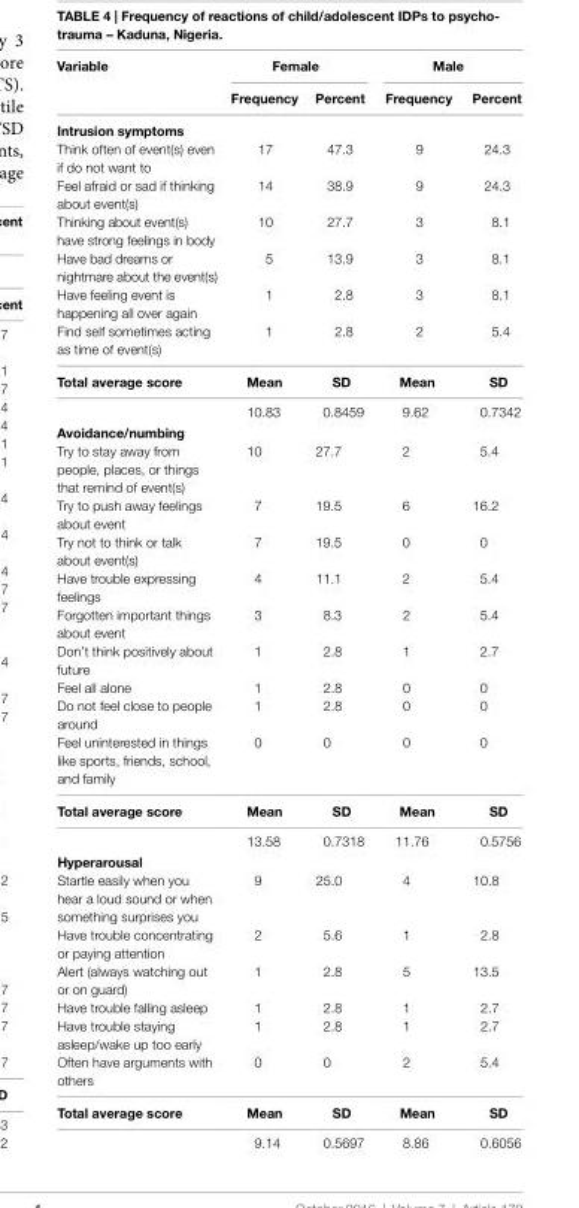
<table><thead><tr><td rowspan="2">Variable</td><td colspan="2">Female</td><td colspan="2">Male</td></tr><tr><td>Frequency</td><td>Percent</td><td>Frequency</td><td>Percent</td></tr></thead><tbody><tr><td colspan="5">intrusion symptoms</td></tr><tr><td>Think often of event(s) even if do not want to</td><td>17</td><td>47.3</td><td>9</td><td>24.3</td></tr><tr><td>Feel afraid or sad if thinking about event(s)</td><td>14</td><td>38.9</td><td>9</td><td>24.3</td></tr><tr><td>Thinking about event(s) have strong feelings in body</td><td>10</td><td>27.7</td><td>3</td><td>8.1</td></tr><tr><td>Have bad dreams or nightmare about the event(s)</td><td>5</td><td>13.9</td><td>3</td><td>8.1</td></tr><tr><td>Have feeling event is happening all over again</td><td>1</td><td>2.8</td><td>3</td><td>8.1</td></tr><tr><td>Find self sometimes acting as time of event(s)</td><td>1</td><td>2.8</td><td>2</td><td>5.4</td></tr><tr><td rowspan="2">Total average score</td><td>Mean</td><td>sD</td><td>Mean</td><td>sD</td></tr><tr><td>10.83</td><td>0.8459</td><td>9.62</td><td>0.7342</td></tr><tr><td colspan="5">avoidance/numbing</td></tr><tr><td>Try to stay away from people, places, or things that remind of event(s)</td><td>10</td><td>27.7</td><td>2</td><td>5.4</td></tr><tr><td>Try to push away feelings about event</td><td>7</td><td>19.5</td><td>6</td><td>16.2</td></tr><tr><td>Try not to think or talk about event(s)</td><td>7</td><td>19.5</td><td>0</td><td>0</td></tr><tr><td>Have trouble expressing feelings</td><td>4</td><td>11.1</td><td>2</td><td>5.4</td></tr><tr><td>Forgotten important things about event</td><td>3</td><td>8.3</td><td>2</td><td>5.4</td></tr><tr><td>Don’t think positively about future</td><td>1</td><td>2.8</td><td>1</td><td>2.7</td></tr><tr><td>Feel all alone</td><td>1</td><td>2.8</td><td>0</td><td>0</td></tr><tr><td>Do not feel close to people around</td><td>1</td><td>2.8</td><td>0</td><td>0</td></tr><tr><td>Feel uninterested in things like sports, friends, school, and family</td><td>0</td><td>0</td><td>0</td><td>0</td></tr><tr><td rowspan="2">Total average score</td><td>Mean</td><td>sD</td><td>Mean</td><td>sD</td></tr><tr><td>13.58</td><td>0.7318</td><td>11.76</td><td>0.5756</td></tr><tr><td colspan="5">hyperarousal</td></tr><tr><td>Startle easily when you hear a loud sound or when something surprises you</td><td>9</td><td>25.0</td><td>4</td><td>10.8</td></tr><tr><td>Have trouble concentrating or paying attention</td><td>2</td><td>5.6</td><td>1</td><td>2.8</td></tr><tr><td>Alert (always watching out or on guard)</td><td>1</td><td>2.8</td><td>5</td><td>13.5</td></tr><tr><td>Have trouble falling asleep</td><td>1</td><td>2.8</td><td>1</td><td>2.7</td></tr><tr><td>Have trouble staying asleep/wake up too early</td><td>1</td><td>2.8</td><td>1</td><td>2.7</td></tr><tr><td>Often have arguments with others</td><td>0</td><td>0</td><td>2</td><td>5.4</td></tr><tr><td rowspan="2">Total average score</td><td>Mean</td><td>sD</td><td>Mean</td><td>sD</td></tr><tr><td>9.14</td><td>0.5697</td><td>8.86</td><td>0.6056</td></tr></tbody></table>